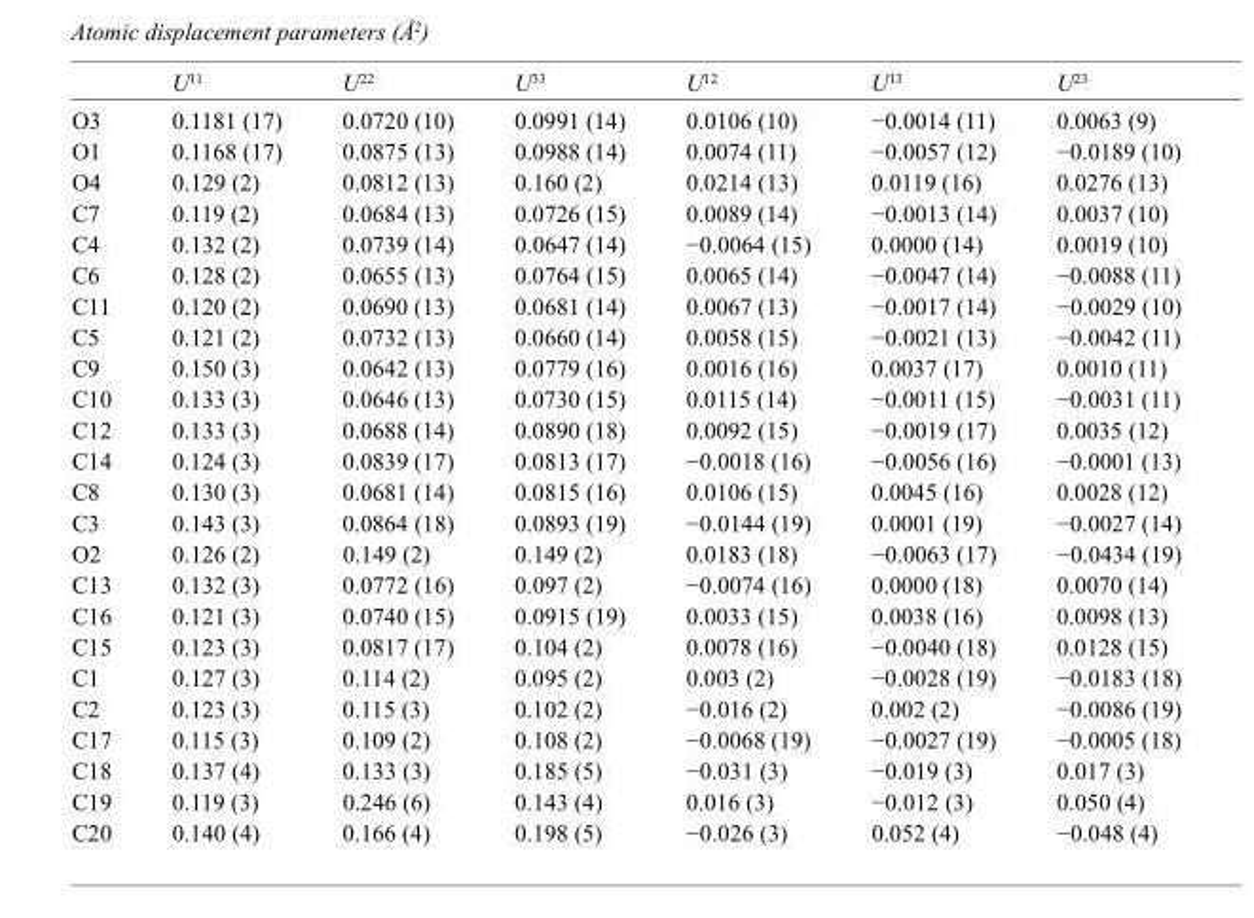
<table><thead><tr><td></td><td>U<sup>11</sup></td><td>U<sup>22</sup></td><td>U<sup>33</sup></td><td>U<sup>12</sup></td><td>U<sup>13</sup></td><td>U<sup>23</sup></td></tr></thead><tbody><tr><td>O3</td><td>0.1181 (17)</td><td>0.0720 (10)</td><td>0.0991 (14)</td><td>0.0106 (10)</td><td>−0.0014 (11)</td><td>0.0063 (9)</td></tr><tr><td>O1</td><td>0.1168 (17)</td><td>0.0875 (13)</td><td>0.0988 (14)</td><td>0.0074 (11)</td><td>−0.0057 (12)</td><td>−0.0189 (10)</td></tr><tr><td>O4</td><td>0.129 (2)</td><td>0.0812 (13)</td><td>0.160 (2)</td><td>0.0214 (13)</td><td>0.0119 (16)</td><td>0.0276 (13)</td></tr><tr><td>C7</td><td>0.119 (2)</td><td>0.0684 (13)</td><td>0.0726 (15)</td><td>0.0089 (14)</td><td>−0.0013 (14)</td><td>0.0037 (10)</td></tr><tr><td>C4</td><td>0.132 (2)</td><td>0.0739 (14)</td><td>0.0647 (14)</td><td>−0.0064 (15)</td><td>0.0000 (14)</td><td>0.0019 (10)</td></tr><tr><td>C6</td><td>0.128 (2)</td><td>0.0655 (13)</td><td>0.0764 (15)</td><td>0.0065 (14)</td><td>−0.0047 (14)</td><td>−0.0088 (11)</td></tr><tr><td>C11</td><td>0.120 (2)</td><td>0.0690 (13)</td><td>0.0681 (14)</td><td>0.0067 (13)</td><td>−0.0017 (14)</td><td>−0.0029 (10)</td></tr><tr><td>C5</td><td>0.121 (2)</td><td>0.0732 (13)</td><td>0.0660 (14)</td><td>0.0058 (15)</td><td>−0.0021 (13)</td><td>−0.0042 (11)</td></tr><tr><td>C9</td><td>0.150 (3)</td><td>0.0642 (13)</td><td>0.0779 (16)</td><td>0.0016 (16)</td><td>0.0037 (17)</td><td>0.0010 (11)</td></tr><tr><td>C10</td><td>0.133 (3)</td><td>0.0646 (13)</td><td>0.0730 (15)</td><td>0.0115 (14)</td><td>−0.0011 (15)</td><td>−0.0031 (11)</td></tr><tr><td>C12</td><td>0.133 (3)</td><td>0.0688 (14)</td><td>0.0890 (18)</td><td>0.0092 (15)</td><td>−0.0019 (17)</td><td>0.0035 (12)</td></tr><tr><td>C14</td><td>0.124 (3)</td><td>0.0839 (17)</td><td>0.0813 (17)</td><td>−0.0018 (16)</td><td>−0.0056 (16)</td><td>−0.0001 (13)</td></tr><tr><td>C8</td><td>0.130 (3)</td><td>0.0681 (14)</td><td>0.0815 (16)</td><td>0.0106 (15)</td><td>0.0045 (16)</td><td>0.0028 (12)</td></tr><tr><td>C3</td><td>0.143 (3)</td><td>0.0864 (18)</td><td>0.0893 (19)</td><td>−0.0144 (19)</td><td>0.0001 (19)</td><td>−0.0027 (14)</td></tr><tr><td>O2</td><td>0.126 (2)</td><td>0.149 (2)</td><td>0.149 (2)</td><td>0.0183 (18)</td><td>−0.0063 (17)</td><td>−0.0434 (19)</td></tr><tr><td>C13</td><td>0.132 (3)</td><td>0.0772 (16)</td><td>0.097 (2)</td><td>−0.0074 (16)</td><td>0.0000 (18)</td><td>0.0070 (14)</td></tr><tr><td>C16</td><td>0.121 (3)</td><td>0.0740 (15)</td><td>0.0915 (19)</td><td>0.0033 (15)</td><td>0.0038 (16)</td><td>0.0098 (13)</td></tr><tr><td>C15</td><td>0.123 (3)</td><td>0.0817 (17)</td><td>0.104 (2)</td><td>0.0078 (16)</td><td>−0.0040 (18)</td><td>0.0128 (15)</td></tr><tr><td>C1</td><td>0.127 (3)</td><td>0.114 (2)</td><td>0.095 (2)</td><td>0.003 (2)</td><td>−0.0028 (19)</td><td>−0.0183 (18)</td></tr><tr><td>C2</td><td>0.123 (3)</td><td>0.115 (3)</td><td>0.102 (2)</td><td>−0.016 (2)</td><td>0.002 (2)</td><td>−0.0086 (19)</td></tr><tr><td>C17</td><td>0.115 (3)</td><td>0.109 (2)</td><td>0.108 (2)</td><td>−0.0068 (19)</td><td>−0.0027 (19)</td><td>−0.0005 (18)</td></tr><tr><td>C18</td><td>0.137 (4)</td><td>0.133 (3)</td><td>0.185 (5)</td><td>−0.031 (3)</td><td>−0.019 (3)</td><td>0.017 (3)</td></tr><tr><td>C19</td><td>0.119 (3)</td><td>0.246 (6)</td><td>0.143 (4)</td><td>0.016 (3)</td><td>−0.012 (3)</td><td>0.050 (4)</td></tr><tr><td>C20</td><td>0.140 (4)</td><td>0.166 (4)</td><td>0.198 (5)</td><td>−0.026 (3)</td><td>0.052 (4)</td><td>−0.048 (4)</td></tr></tbody></table>